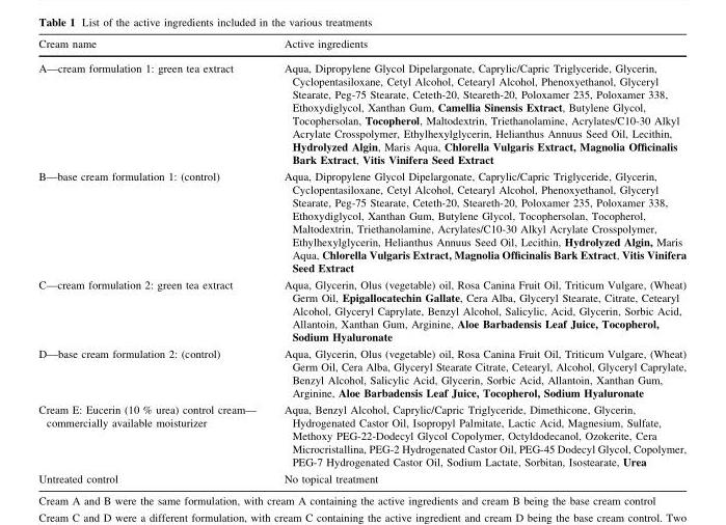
<table><thead><tr><td>Cream name</td><td>Active ingredients</td></tr></thead><tbody><tr><td>A—cream formulation 1: green tea extract</td><td>Aqua, Dipropylene Glycol Dipelargonate, Caprylic/Capric Triglyceride, Glycerin, Cyclopentasiloxane, Cetyl Alcohol, Cetearyl Alcohol, Phenoxyethanol, Glyceryl Stearate, Peg-75 Stearate, Ceteth-20, Steareth-20, Poloxamer 235, Poloxamer 338, Ethoxydiglycol, Xanthan Gum, Camellia Sinensis Extract, Butylene Glycol, Tocophersolan, Tocopherol, Maltodextrin, Triethanolamine, Acrylates/C10-30 Alkyl Acrylate Crosspolymer, Ethylhexylglycerin, Helianthus Annuus Seed Oil, Lecithin, Hydrolyzed Algin, Maris Aqua, Chlorella Vulgaris Extract, Magnolia Officinalis Bark Extract, Vitis Vinifera Seed Extract</td></tr><tr><td>B—base cream formulation 1: (control)</td><td>Aqua, Dipropylene Glycol Dipelargonate, Caprylic/Capric Triglyceride, Glycerin, Cyclopentasiloxane, Cetyl Alcohol, Cetearyl Alcohol, Phenoxyethanol, Glyceryl Stearate, Peg-75 Stearate, Ceteth-20, Steareth-20, Poloxamer 235, Poloxamer 338, Ethoxydiglycol, Xanthan Gum, Butylene Glycol, Tocophersolan, Tocopherol, Maltodextrin, Triethanolamine, Acrylates/C10-30 Alkyl Acrylate Crosspolymer, Ethylhexylglycerin, Helianthus Annuus Seed Oil, Lecithin, Hydrolyzed Algin, Maris Aqua, Chlorella Vulgaris Extract, Magnolia Officinalis Bark Extract, Vitis Vinifera Seed Extract</td></tr><tr><td>C—cream formulation 2: green tea extract</td><td>Aqua, Glycerin, Olus (vegetable) oil, Rosa Canina Fruit Oil, Triticum Vulgare, (Wheat) Germ Oil, Epigallocatechin Gallate, Cera Alba, Glyceryl Stearate, Citrate, Cetearyl Alcohol, Glyceryl Caprylate, Benzyl Alcohol, Salicylic, Acid, Glycerin, Sorbic Acid, Allantoin, Xanthan Gum, Arginine, Aloe Barbadensis Leaf Juice, Tocopherol, Sodium Hyaluronate</td></tr><tr><td>D—base cream formulation 2: (control)</td><td>Aqua, Glycerin, Olus (vegetable) oil, Rosa Canina Fruit Oil, Triticum Vulgare, (Wheat) Germ Oil, Cera Alba, Glyceryl Stearate Citrate, Cetearyl, Alcohol, Glyceryl Caprylate, Benzyl Alcohol, Salicylic Acid, Glycerin, Sorbic Acid, Allantoin, Xanthan Gum, Arginine, Aloe Barbadensis Leaf Juice, Tocopherol, Sodium Hyaluronate</td></tr><tr><td>Cream E: Eucerin (10 % urea) control cream— commercially available moisturizer</td><td>Aqua, Benzyl Alcohol, Caprylic/Capric Triglyceride, Dimethicone, Glycerin, Hydrogenated Castor Oil, Isopropyl Palmitate, Lactic Acid, Magnesium, Sulfate, Methoxy PEG-22-Dodecyl Glycol Copolymer, Octyldodecanol, Ozokerite, Cera Microcristallina, PEG-2 Hydrogenated Castor Oil, PEG-45 Dodecyl Glycol, Copolymer, PEG-7 Hydrogenated Castor Oil, Sodium Lactate, Sorbitan, Isostearate, Urea</td></tr><tr><td>Untreated control</td><td>No topical treatment</td></tr></tbody></table>